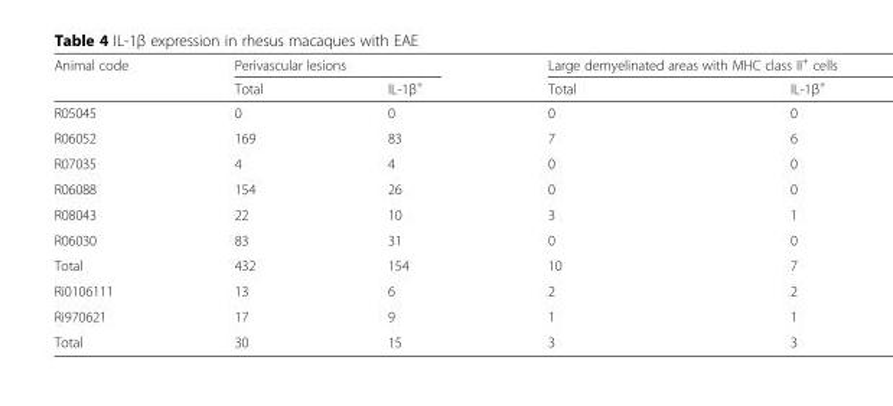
<table><thead><tr><td rowspan="2">Animal code</td><td colspan="2">Perivascular lesions</td><td colspan="2">Large demyelinated areas with MHC class II<sup>+</sup> cells</td></tr><tr><td>Total</td><td>IL-1β<sup>+</sup></td><td>Total</td><td>IL-1β<sup>+</sup></td></tr></thead><tbody><tr><td>R05045</td><td>0</td><td>0</td><td>0</td><td>0</td></tr><tr><td>R06052</td><td>169</td><td>83</td><td>7</td><td>6</td></tr><tr><td>R07035</td><td>4</td><td>4</td><td>0</td><td>0</td></tr><tr><td>R06088</td><td>154</td><td>26</td><td>0</td><td>0</td></tr><tr><td>R08043</td><td>22</td><td>10</td><td>3</td><td>1</td></tr><tr><td>R06030</td><td>83</td><td>31</td><td>0</td><td>0</td></tr><tr><td>Total</td><td>432</td><td>154</td><td>10</td><td>7</td></tr><tr><td>Ri0106111</td><td>13</td><td>6</td><td>2</td><td>2</td></tr><tr><td>Ri970621</td><td>17</td><td>9</td><td>1</td><td>1</td></tr><tr><td>Total</td><td>30</td><td>15</td><td>3</td><td>3</td></tr></tbody></table>